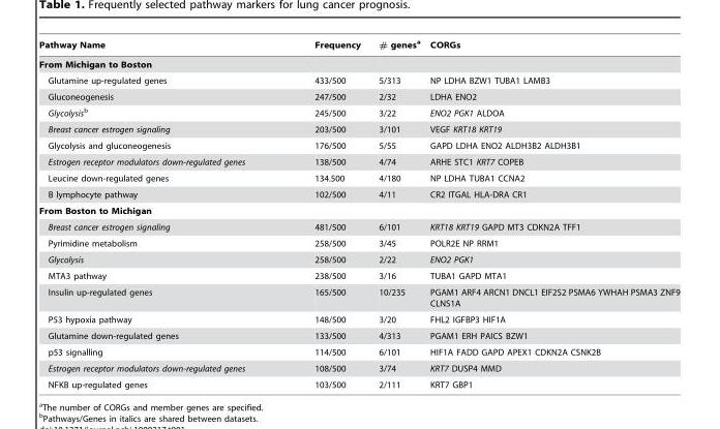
<table><thead><tr><td>Pathway Name</td><td>Frequency</td><td># genes<sup>a</sup></td><td>CORGs</td></tr></thead><tbody><tr><td colspan="4">From Michigan to Boston</td></tr><tr><td>Glutamine up-regulated genes</td><td>433/500</td><td>5/313</td><td>NP LDHA BZW1 TUBA1 LAMB3</td></tr><tr><td>Gluconeogenesis</td><td>247/500</td><td>2/32</td><td>LDHA ENO2</td></tr><tr><td>Glycolysisb</td><td>245/500</td><td>3/22</td><td>ENO2 PGK1 ALDOA</td></tr><tr><td>Breast cancer estrogen signaling</td><td>203/500</td><td>3/101</td><td>VEGF KRT18 KRT19</td></tr><tr><td>Glycolysis and gluconeogenesis</td><td>176/500</td><td>5/55</td><td>GAPD LDHA ENO2 ALDH3B2 ALDH3B1</td></tr><tr><td>Estrogen receptor modulators down-regulated genes</td><td>138/500</td><td>4/74</td><td>ARHE STC1 KRT7 COPEB</td></tr><tr><td>Leucine down-regulated genes</td><td>134.500</td><td>4/180</td><td>NP LDHA TUBA1 CCNA2</td></tr><tr><td>B lymphocyte pathway</td><td>102/500</td><td>4/11</td><td>CR2 ITGAL HLA-DRA CR1</td></tr><tr><td colspan="4">From Boston to Michigan</td></tr><tr><td>Breast cancer estrogen signaling</td><td>481/500</td><td>6/101</td><td>KRT18 KRT19 GAPD MT3 CDKN2A TFF1</td></tr><tr><td>Pyrimidine metabolism</td><td>258/500</td><td>3/45</td><td>POLR2E NP RRM1</td></tr><tr><td>Glycolysis</td><td>258/500</td><td>2/22</td><td>ENO2 PGK1</td></tr><tr><td>MTA3 pathway</td><td>238/500</td><td>3/16</td><td>TUBA1 GAPD MTA1</td></tr><tr><td>Insulin up-regulated genes</td><td>165/500</td><td>10/235</td><td>PGAM1 ARF4 ARCN1 DNCL1 EIF2S2 PSMA6 YWHAH PSMA3 ZNF9 CLNS1A</td></tr><tr><td>P53 hypoxia pathway</td><td>148/500</td><td>3/20</td><td>FHL2 IGFBP3 HIF1A</td></tr><tr><td>Glutamine down-regulated genes</td><td>133/500</td><td>4/313</td><td>PGAM1 ERH PAICS BZW1</td></tr><tr><td>p53 signalling</td><td>114/500</td><td>6/101</td><td>HIF1A FADD GAPD APEX1 CDKN2A CSNK2B</td></tr><tr><td>Estrogen receptor modulators down-regulated genes</td><td>108/500</td><td>3/74</td><td>KRT7 DUSP4 MMD</td></tr><tr><td>NFKB up-regulated genes</td><td>103/500</td><td>2/111</td><td>KRT7 GBP1</td></tr></tbody></table>